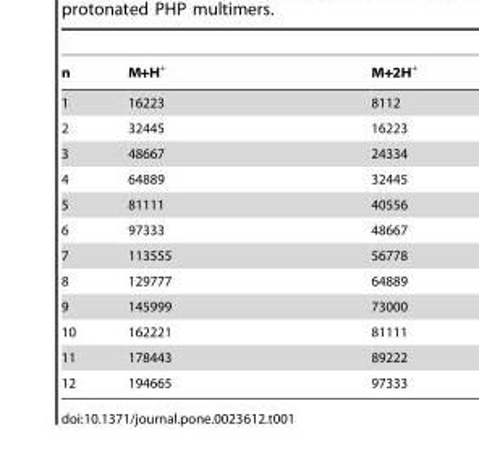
<table><thead><tr><td>n</td><td>M+H<sup>+</sup></td><td>M+2H<sup>+</sup></td></tr></thead><tbody><tr><td>1</td><td>16223</td><td>8112</td></tr><tr><td>2</td><td>32445</td><td>16223</td></tr><tr><td>3</td><td>48667</td><td>24334</td></tr><tr><td>4</td><td>64889</td><td>32445</td></tr><tr><td>5</td><td>81111</td><td>40556</td></tr><tr><td>6</td><td>97333</td><td>48667</td></tr><tr><td>7</td><td>113555</td><td>56778</td></tr><tr><td>8</td><td>129777</td><td>64889</td></tr><tr><td>9</td><td>145999</td><td>73000</td></tr><tr><td>10</td><td>162221</td><td>81111</td></tr><tr><td>11</td><td>178443</td><td>89222</td></tr><tr><td>12</td><td>194665</td><td>97333</td></tr></tbody></table>